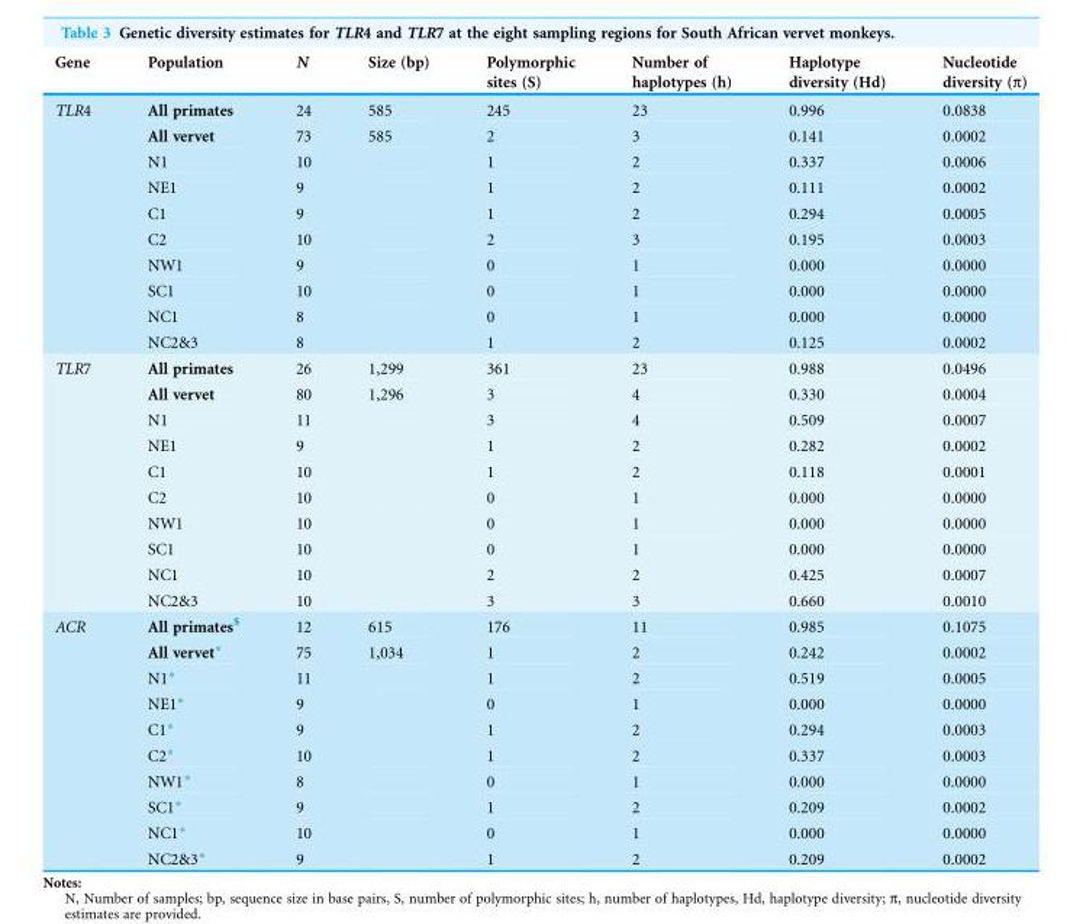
<table><thead><tr><td>Gene</td><td>Population</td><td>N</td><td>Size (bp)</td><td>Polymorphic sites (S)</td><td>Number of haplotypes (h)</td><td>Haplotype diversity (Hd)</td><td>Nucleotide diversity (π)</td></tr></thead><tbody><tr><td rowspan="10">TLR4</td><td>All primates</td><td>24</td><td>585</td><td>245</td><td>23</td><td>0.996</td><td>0.0838</td></tr><tr><td>All vervet</td><td>73</td><td>585</td><td>2</td><td>3</td><td>0.141</td><td>0.0002</td></tr><tr><td>N1</td><td>10</td><td></td><td>1</td><td>2</td><td>0.337</td><td>0.0006</td></tr><tr><td>NE1</td><td>9</td><td></td><td>1</td><td>2</td><td>0.111</td><td>0.0002</td></tr><tr><td>C1</td><td>9</td><td></td><td>1</td><td>2</td><td>0.294</td><td>0.0005</td></tr><tr><td>C2</td><td>10</td><td></td><td>2</td><td>3</td><td>0.195</td><td>0.0003</td></tr><tr><td>NW1</td><td>9</td><td></td><td>0</td><td>1</td><td>0.000</td><td>0.0000</td></tr><tr><td>SC1</td><td>10</td><td></td><td>0</td><td>1</td><td>0.000</td><td>0.0000</td></tr><tr><td>NC1</td><td>8</td><td></td><td>0</td><td>1</td><td>0.000</td><td>0.0000</td></tr><tr><td>NC2&amp;3</td><td>8</td><td></td><td>1</td><td>2</td><td>0.125</td><td>0.0002</td></tr><tr><td rowspan="10">TLR7</td><td>All primates</td><td>26</td><td>1,299</td><td>361</td><td>23</td><td>0.988</td><td>0.0496</td></tr><tr><td>All vervet</td><td>80</td><td>1,296</td><td>3</td><td>4</td><td>0.330</td><td>0.0004</td></tr><tr><td>N1</td><td>11</td><td></td><td>3</td><td>4</td><td>0.509</td><td>0.0007</td></tr><tr><td>NE1</td><td>9</td><td></td><td>1</td><td>2</td><td>0.282</td><td>0.0002</td></tr><tr><td>C1</td><td>10</td><td></td><td>1</td><td>2</td><td>0.118</td><td>0.0001</td></tr><tr><td>C2</td><td>10</td><td></td><td>0</td><td>1</td><td>0.000</td><td>0.0000</td></tr><tr><td>NW1</td><td>10</td><td></td><td>0</td><td>1</td><td>0.000</td><td>0.0000</td></tr><tr><td>SC1</td><td>10</td><td></td><td>0</td><td>1</td><td>0.000</td><td>0.0000</td></tr><tr><td>NC1</td><td>10</td><td></td><td>2</td><td>2</td><td>0.425</td><td>0.0007</td></tr><tr><td>NC2&amp;3</td><td>10</td><td></td><td>3</td><td>3</td><td>0.660</td><td>0.0010</td></tr><tr><td rowspan="10">ACR</td><td>All primates<sup>$</sup></td><td>12</td><td>615</td><td>176</td><td>11</td><td>0.985</td><td>0.1075</td></tr><tr><td>All vervet*</td><td>75</td><td>1,034</td><td>1</td><td>2</td><td>0.242</td><td>0.0002</td></tr><tr><td>N1*</td><td>11</td><td></td><td>1</td><td>2</td><td>0.519</td><td>0.0005</td></tr><tr><td>NE1*</td><td>9</td><td></td><td>0</td><td>1</td><td>0.000</td><td>0.0000</td></tr><tr><td>C1*</td><td>9</td><td></td><td>1</td><td>2</td><td>0.294</td><td>0.0003</td></tr><tr><td>C2*</td><td>10</td><td></td><td>1</td><td>2</td><td>0.337</td><td>0.0003</td></tr><tr><td>NW1*</td><td>8</td><td></td><td>0</td><td>1</td><td>0.000</td><td>0.0000</td></tr><tr><td>SC1*</td><td>9</td><td></td><td>1</td><td>2</td><td>0.209</td><td>0.0002</td></tr><tr><td>NC1*</td><td>10</td><td></td><td>0</td><td>1</td><td>0.000</td><td>0.0000</td></tr><tr><td>NC2&amp;3*</td><td>9</td><td></td><td>1</td><td>2</td><td>0.209</td><td>0.0002</td></tr></tbody></table>